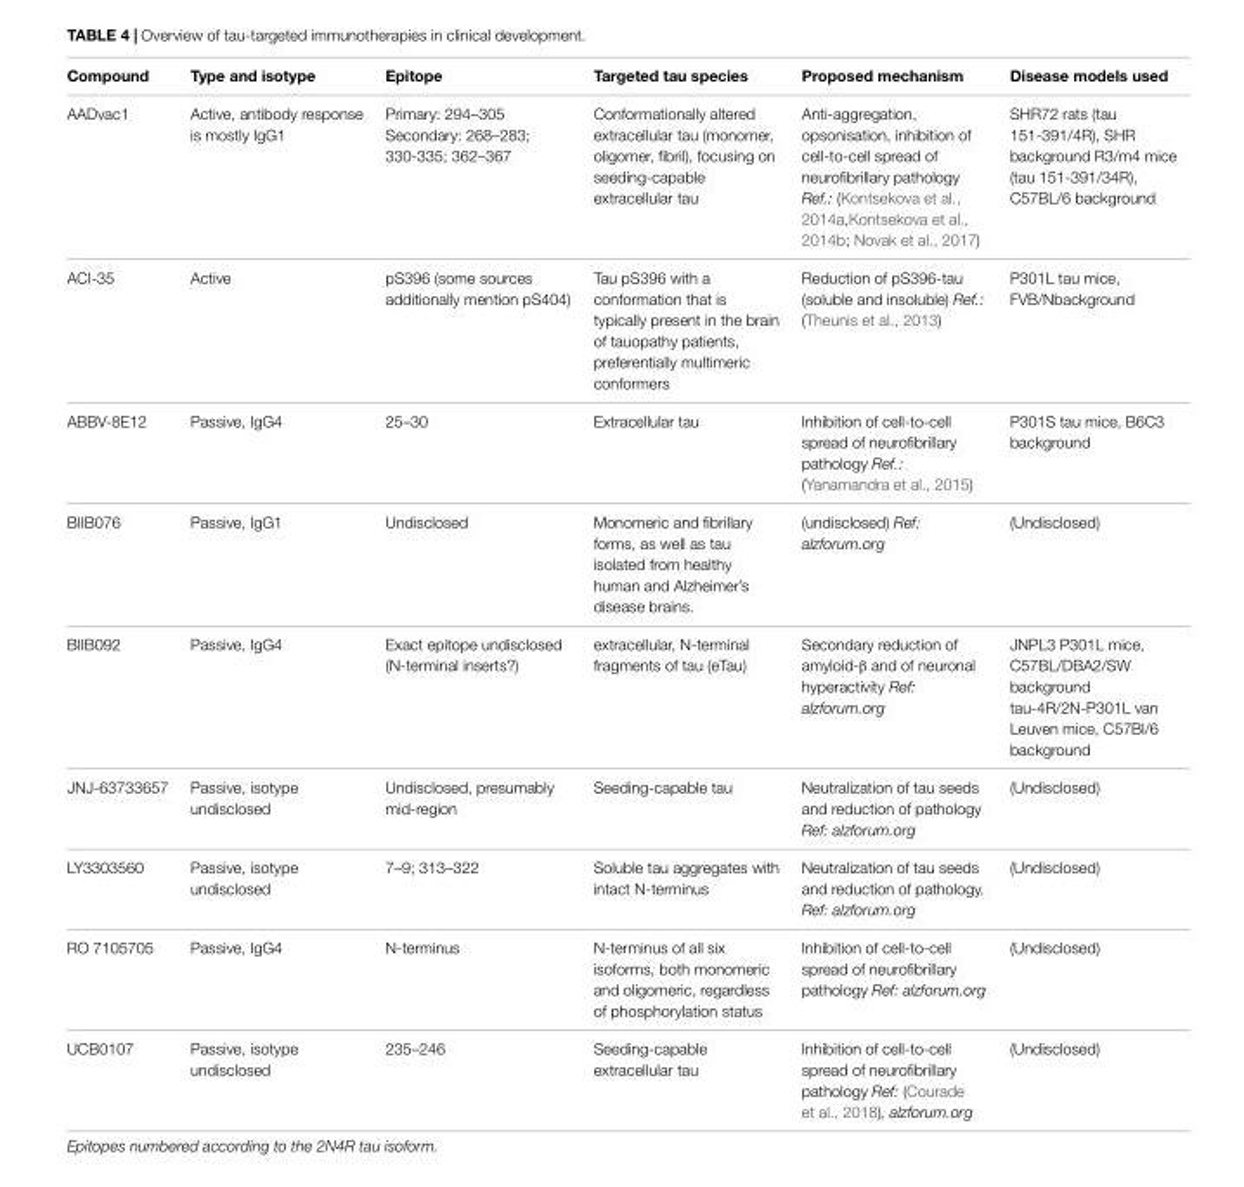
<table><thead><tr><td>Compound</td><td>Type and isotype</td><td>Epitope</td><td>Targeted tau species</td><td>Proposed mechanism</td><td>Disease models used</td></tr></thead><tbody><tr><td>AADvac1</td><td>Active, antibody response is mostly IgG1</td><td>Primary: 294–305 Secondary: 268–283; 330-335; 362–367</td><td>Conformationally altered extracellular tau (monomer, oligomer, fibril), focusing on seeding-capable extracellular tau</td><td>Anti-aggregation, opsonisation, inhibition of cell-to-cell spread of neurofibrillary pathology Ref.: (Kontsekova et al., 2014a,Kontsekova et al., 2014b; Novak et al., 2017)</td><td>SHR72 rats (tau 151-391/4R), SHR background R3/m4 mice (tau 151-391/34R), C57BL/6 background</td></tr><tr><td>ACI-35</td><td>Active</td><td>pS396 (some sources additionally mention pS404)</td><td>Tau pS396 with a conformation that is typically present in the brain of tauopathy patients, preferentially multimeric conformers</td><td>Reduction of pS396-tau (soluble and insoluble) Ref.: (Theunis et al., 2013)</td><td>P301L tau mice, FVB/Nbackground</td></tr><tr><td>ABBV-8E12</td><td>Passive, IgG4</td><td>25–30</td><td>Extracellular tau</td><td>Inhibition of cell-to-cell spread of neurofibrillary pathology Ref.: (Yanamandra et al., 2015)</td><td>P301S tau mice, B6C3 background</td></tr><tr><td>BIIB076</td><td>Passive, IgG1</td><td>Undisclosed</td><td>Monomeric and fibrillary forms, as well as tau isolated from healthy human and Alzheimer’s disease brains.</td><td>(undisclosed) Ref: alzforum.org</td><td>(Undisclosed)</td></tr><tr><td>BIIB092</td><td>Passive, IgG4</td><td>Exact epitope undisclosed (N-terminal inserts?)</td><td>extracellular, N-terminal fragments of tau (eTau)</td><td>Secondary reduction of amyloid-β and of neuronal hyperactivity Ref: alzforum.org</td><td>JNPL3 P301L mice, C57BL/DBA2/SW background tau-4R/2N-P301L van Leuven mice, C57Bl/6 background</td></tr><tr><td>JNJ-63733657</td><td>Passive, isotype undisclosed</td><td>Undisclosed, presumably mid-region</td><td>Seeding-capable tau</td><td>Neutralization of tau seeds and reduction of pathology Ref: alzforum.org</td><td>(Undisclosed)</td></tr><tr><td>LY3303560</td><td>Passive, isotype undisclosed</td><td>7–9; 313–322</td><td>Soluble tau aggregates with intact N-terminus</td><td>Neutralization of tau seeds and reduction of pathology. Ref: alzforum.org</td><td>(Undisclosed)</td></tr><tr><td>RO 7105705</td><td>Passive, IgG4</td><td>N-terminus</td><td>N-terminus of all six isoforms, both monomeric and oligomeric, regardless of phosphorylation status</td><td>Inhibition of cell-to-cell spread of neurofibrillary pathology Ref: alzforum.org</td><td>(Undisclosed)</td></tr><tr><td>UCB0107</td><td>Passive, isotype undisclosed</td><td>235–246</td><td>Seeding-capable extracellular tau</td><td>Inhibition of cell-to-cell spread of neurofibrillary pathology Ref: (Courade et al., 2018), alzforum.org</td><td>(Undisclosed)</td></tr></tbody></table>